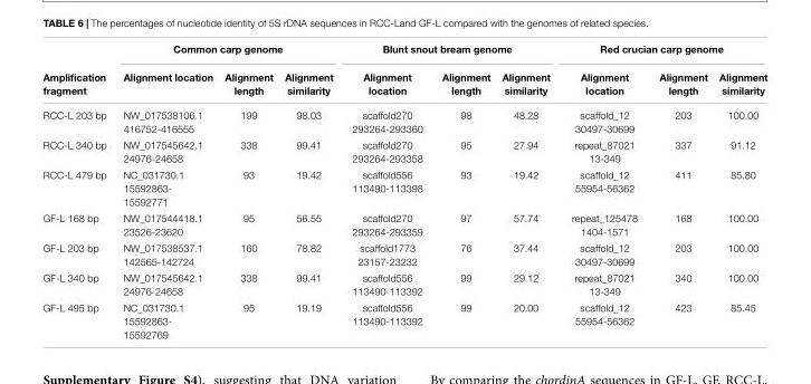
<table><thead><tr><td rowspan="2">Amplification fragment</td><td colspan="3">Common carp genome</td><td colspan="3">Blunt snout bream genome</td><td colspan="3">Red crucian carp genome</td></tr><tr><td>Alignment location</td><td>Alignment length</td><td>Alignment similarity</td><td>Alignment location</td><td>Alignment length</td><td>Alignment similarity</td><td>Alignment location</td><td>Alignment length</td><td>Alignment similarity</td></tr></thead><tbody><tr><td>RCC-L 203 bp</td><td>NW_017538106.1 416752-416555</td><td>199</td><td>98.03</td><td>scaffold270 293264-293360</td><td>98</td><td>48.28</td><td>scaffold_12 30497-30699</td><td>203</td><td>100.00</td></tr><tr><td>RCC-L 340 bp</td><td>NW_017545642.1 24976-24658</td><td>338</td><td>99.41</td><td>scaffold270 293264-293358</td><td>95</td><td>27.94</td><td>repeat_87021 13-349</td><td>337</td><td>91.12</td></tr><tr><td>RCC-L 479 bp</td><td>NC_031730.1 15592863- 15592771</td><td>93</td><td>19.42</td><td>scaffold556 113490-113398</td><td>93</td><td>19.42</td><td>scaffold_12 55954-56362</td><td>411</td><td>85.80</td></tr><tr><td>GF-L 168 bp</td><td>NW_017544418.1 23526-23620</td><td>95</td><td>56.55</td><td>scaffold270 293264-293359</td><td>97</td><td>57.74</td><td>repeat_125478 1404-1571</td><td>168</td><td>100.00</td></tr><tr><td>GF-L 203 bp</td><td>NW_017538537.1 142565-142724</td><td>160</td><td>78.82</td><td>scaffold1773 23157-23232</td><td>76</td><td>37.44</td><td>scaffold_12 30497-30699</td><td>203</td><td>100.00</td></tr><tr><td>GF-L 340 bp</td><td>NW_017545642.1 24976-24658</td><td>338</td><td>99.41</td><td>scaffold556 113490-113392</td><td>99</td><td>29.12</td><td>repeat_87021 13-349</td><td>340</td><td>100.00</td></tr><tr><td>GF-L 495 bp</td><td>NC_031730.1 15592863- 15592769</td><td>95</td><td>19.19</td><td>scaffold556 113490-113392</td><td>99</td><td>20.00</td><td>scaffold_12 55954-56362</td><td>423</td><td>85.45</td></tr></tbody></table>